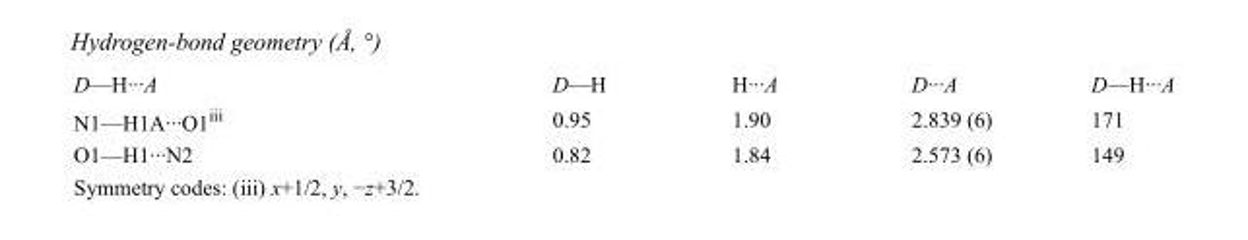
<table><tbody><tr><td>D—H···A</td><td>D—H</td><td>H···A</td><td>D···A</td><td>D—H···A</td></tr><tr><td>N1—H1A···O1<sup>iii</sup></td><td>0.95</td><td>1.90</td><td>2.839 (6)</td><td>171</td></tr><tr><td>O1—H1···N2</td><td>0.82</td><td>1.84</td><td>2.573 (6)</td><td>149</td></tr></tbody></table>